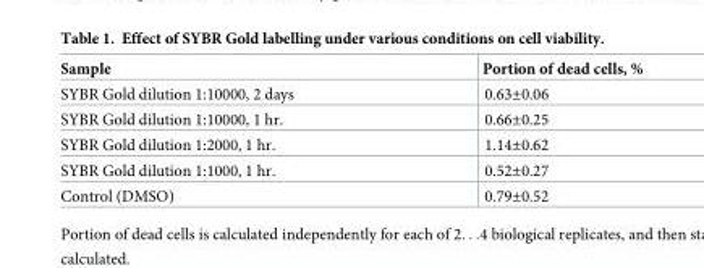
<table><thead><tr><td>Sample</td><td>Portion of dead cells, %</td></tr></thead><tbody><tr><td>SYBR Gold dilution 1:10000, 2 days</td><td>0.63±0.06</td></tr><tr><td>SYBR Gold dilution 1:10000, 1 hr.</td><td>0.66±0.25</td></tr><tr><td>SYBR Gold dilution 1:2000, 1 hr.</td><td>1.14±0.62</td></tr><tr><td>SYBR Gold dilution 1:1000, 1 hr.</td><td>0.52±0.27</td></tr><tr><td>Control (DMSO)</td><td>0.79±0.52</td></tr></tbody></table>